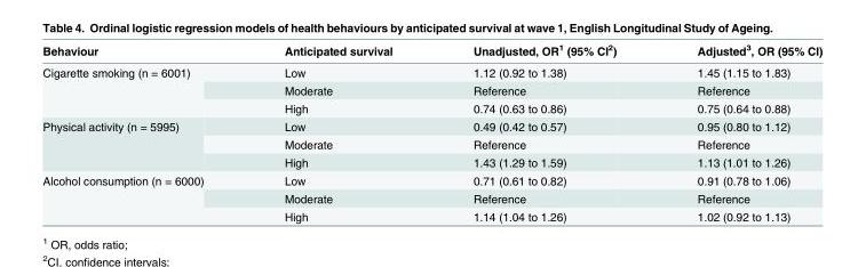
<table><thead><tr><td>Behaviour</td><td>Anticipated survival</td><td>Unadjusted, OR<sup>1</sup> (95% CI<sup>2</sup>)</td><td>Adjusted<sup>3</sup>, OR (95% CI)</td></tr></thead><tbody><tr><td rowspan="3">Cigarette smoking (n = 6001)</td><td>Low</td><td>1.12 (0.92 to 1.38)</td><td>1.45 (1.15 to 1.83)</td></tr><tr><td>Moderate</td><td>Reference</td><td>Reference</td></tr><tr><td>High</td><td>0.74 (0.63 to 0.86)</td><td>0.75 (0.64 to 0.88)</td></tr><tr><td rowspan="3">Physical activity (n = 5995)</td><td>Low</td><td>0.49 (0.42 to 0.57)</td><td>0.95 (0.80 to 1.12)</td></tr><tr><td>Moderate</td><td>Reference</td><td>Reference</td></tr><tr><td>High</td><td>1.43 (1.29 to 1.59)</td><td>1.13 (1.01 to 1.26)</td></tr><tr><td rowspan="3">Alcohol consumption (n = 6000)</td><td>Low</td><td>0.71 (0.61 to 0.82)</td><td>0.91 (0.78 to 1.06)</td></tr><tr><td>Moderate</td><td>Reference</td><td>Reference</td></tr><tr><td>High</td><td>1.14 (1.04 to 1.26)</td><td>1.02 (0.92 to 1.13)</td></tr></tbody></table>